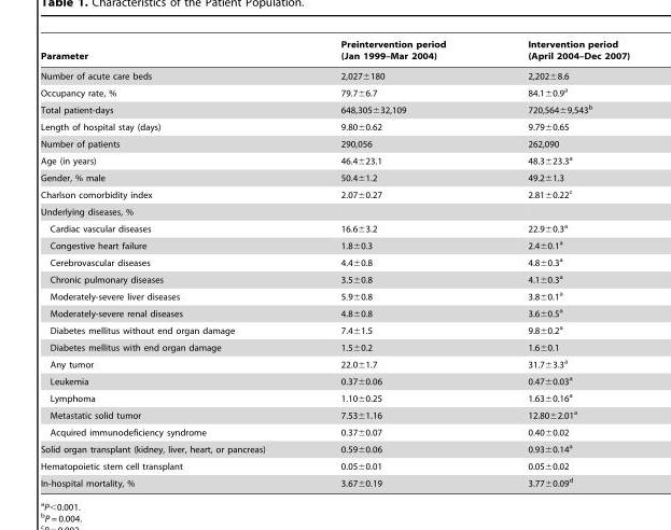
<table><thead><tr><td>Parameter</td><td>Preintervention period (Jan 1999–Mar 2004)</td><td>Intervention period (April 2004–Dec 2007)</td></tr></thead><tbody><tr><td>Number of acute care beds</td><td>2,027±180</td><td>2,202±8.6</td></tr><tr><td>Occupancy rate, %</td><td>79.7±6.7</td><td>84.1±0.9<sup>a</sup></td></tr><tr><td>Total patient-days</td><td>648,305±32,109</td><td>720,564±9,543<sup>b</sup></td></tr><tr><td>Length of hospital stay (days)</td><td>9.80±0.62</td><td>9.79±0.65</td></tr><tr><td>Number of patients</td><td>290,056</td><td>262,090</td></tr><tr><td>Age (in years)</td><td>46.4±23.1</td><td>48.3±23.3<sup>a</sup></td></tr><tr><td>Gender, % male</td><td>50.4±1.2</td><td>49.2±1.3</td></tr><tr><td>Charlson comorbidity index</td><td>2.07±0.27</td><td>2.81±0.22<sup>c</sup></td></tr><tr><td colspan="3">Underlying diseases, %</td></tr><tr><td>Cardiac vascular diseases</td><td>16.6±3.2</td><td>22.9±0.3<sup>a</sup></td></tr><tr><td>Congestive heart failure</td><td>1.8±0.3</td><td>2.4±0.1<sup>a</sup></td></tr><tr><td>Cerebrovascular diseases</td><td>4.4±0.8</td><td>4.8±0.3<sup>a</sup></td></tr><tr><td>Chronic pulmonary diseases</td><td>3.5±0.8</td><td>4.1±0.3<sup>a</sup></td></tr><tr><td>Moderately-severe liver diseases</td><td>5.9±0.8</td><td>3.8±0.1<sup>a</sup></td></tr><tr><td>Moderately-severe renal diseases</td><td>4.8±0.8</td><td>3.6±0.5<sup>a</sup></td></tr><tr><td>Diabetes mellitus without end organ damage</td><td>7.4±1.5</td><td>9.8±0.2<sup>a</sup></td></tr><tr><td>Diabetes mellitus with end organ damage</td><td>1.5±0.2</td><td>1.6±0.1</td></tr><tr><td>Any tumor</td><td>22.0±1.7</td><td>31.7±3.3<sup>a</sup></td></tr><tr><td>Leukemia</td><td>0.37±0.06</td><td>0.47±0.03<sup>a</sup></td></tr><tr><td>Lymphoma</td><td>1.10±0.25</td><td>1.63±0.16<sup>a</sup></td></tr><tr><td>Metastatic solid tumor</td><td>7.53±1.16</td><td>12.80±2.01<sup>a</sup></td></tr><tr><td>Acquired immunodeficiency syndrome</td><td>0.37±0.07</td><td>0.40±0.02</td></tr><tr><td>Solid organ transplant (kidney, liver, heart, or pancreas)</td><td>0.59±0.06</td><td>0.93±0.14<sup>a</sup></td></tr><tr><td>Hematopoietic stem cell transplant</td><td>0.05±0.01</td><td>0.05±0.02</td></tr><tr><td>In-hospital mortality, %</td><td>3.67±0.19</td><td>3.77±0.09<sup>d</sup></td></tr></tbody></table>